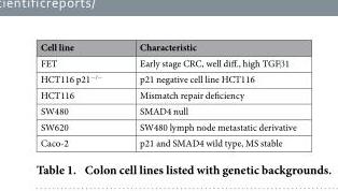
<table><thead><tr><td>Cell line</td><td>Characteristic</td></tr></thead><tbody><tr><td>FET</td><td>Early stage CRC, well diff., high TGFβ 1</td></tr><tr><td>HCT116 p21<sup>−/−</sup></td><td>p21 negative cell line HCT116</td></tr><tr><td>HCT116</td><td>Mismatch repair deficiency</td></tr><tr><td>SW480</td><td>SMAD4 null</td></tr><tr><td>SW620</td><td>SW480 lymph node metastatic derivative</td></tr><tr><td>Caco-2</td><td>p21 and SMAD4 wild type, MS stable</td></tr></tbody></table>